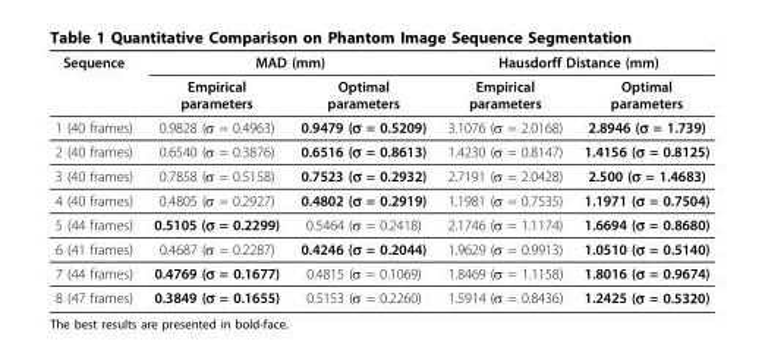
<table><thead><tr><td rowspan="2">Sequence</td><td colspan="2">MAD (mm)</td><td colspan="2">Hausdorff Distance (mm)</td></tr><tr><td>Empirical parameters</td><td>Optimal parameters</td><td>Empirical parameters</td><td>Optimal parameters</td></tr></thead><tbody><tr><td>1 (40 frames)</td><td>0.9828 (σ = 0.4963)</td><td>0.9479 (σ = 0.5209)</td><td>3.1076 (σ = 2.0168)</td><td>2.8946 (σ = 1.739)</td></tr><tr><td>2 (40 frames)</td><td>0.6540 (σ = 0.3876)</td><td>0.6516 (σ = 0.8613)</td><td>1.4230 (σ = 0.8147)</td><td>1.4156 (σ = 0.8125)</td></tr><tr><td>3 (40 frames)</td><td>0.7858 (σ = 0.5158)</td><td>0.7523 (σ = 0.2932)</td><td>2.7191 (σ = 2.0428)</td><td>2.500 (σ = 1.4683)</td></tr><tr><td>4 (40 frames)</td><td>0.4805 (σ = 0.2927)</td><td>0.4802 (σ = 0.2919)</td><td>1.1981 (σ = 0.7535)</td><td>1.1971 (σ = 0.7504)</td></tr><tr><td>5 (44 frames)</td><td>0.5105 (σ = 0.2299)</td><td>0.5464 (σ = 0.2418)</td><td>2.1746 (σ = 1.1174)</td><td>1.6694 (σ = 0.8680)</td></tr><tr><td>6 (41 frames)</td><td>0.4687 (σ = 0.2287)</td><td>0.4246 (σ = 0.2044)</td><td>1.9629 (σ = 0.9913)</td><td>1.0510 (σ = 0.5140)</td></tr><tr><td>7 (44 frames)</td><td>0.4769 (σ = 0.1677)</td><td>0.4815 (σ = 0.1069)</td><td>1.8469 (σ = 1.1158)</td><td>1.8016 (σ = 0.9674)</td></tr><tr><td>8 (47 frames)</td><td>0.3849 (σ = 0.1655)</td><td>0.5153 (σ = 0.2260)</td><td>1.5914 (σ = 0.8436)</td><td>1.2425 (σ = 0.5320)</td></tr></tbody></table>